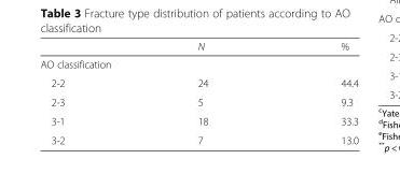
<table><thead><tr><td></td><td>N</td><td>%</td></tr></thead><tbody><tr><td colspan="3">AO classification</td></tr><tr><td>2-2</td><td>24</td><td>44.4</td></tr><tr><td>2-3</td><td>5</td><td>9.3</td></tr><tr><td>3-1</td><td>18</td><td>33.3</td></tr><tr><td>3-2</td><td>7</td><td>13.0</td></tr></tbody></table>